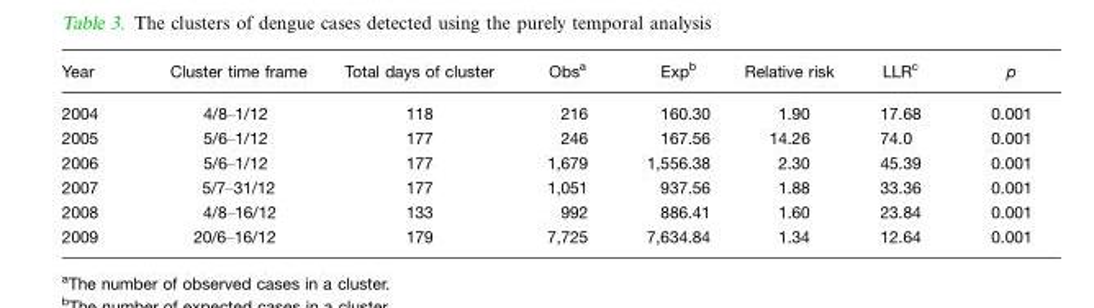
<table><thead><tr><td>Year</td><td>Cluster time frame</td><td>Total days of cluster</td><td>Obs<sup>a</sup></td><td>Exp<sup>b</sup></td><td>Relative risk</td><td>LLR<sup>c</sup></td><td>p</td></tr></thead><tbody><tr><td>2004</td><td>4/8–1/12</td><td>118</td><td>216</td><td>160.30</td><td>1.90</td><td>17.68</td><td>0.001</td></tr><tr><td>2005</td><td>5/6–1/12</td><td>177</td><td>246</td><td>167.56</td><td>14.26</td><td>74.0</td><td>0.001</td></tr><tr><td>2006</td><td>5/6–1/12</td><td>177</td><td>1,679</td><td>1,556.38</td><td>2.30</td><td>45.39</td><td>0.001</td></tr><tr><td>2007</td><td>5/7–31/12</td><td>177</td><td>1,051</td><td>937.56</td><td>1.88</td><td>33.36</td><td>0.001</td></tr><tr><td>2008</td><td>4/8–16/12</td><td>133</td><td>992</td><td>886.41</td><td>1.60</td><td>23.84</td><td>0.001</td></tr><tr><td>2009</td><td>20/6–16/12</td><td>179</td><td>7,725</td><td>7,634.84</td><td>1.34</td><td>12.64</td><td>0.001</td></tr></tbody></table>